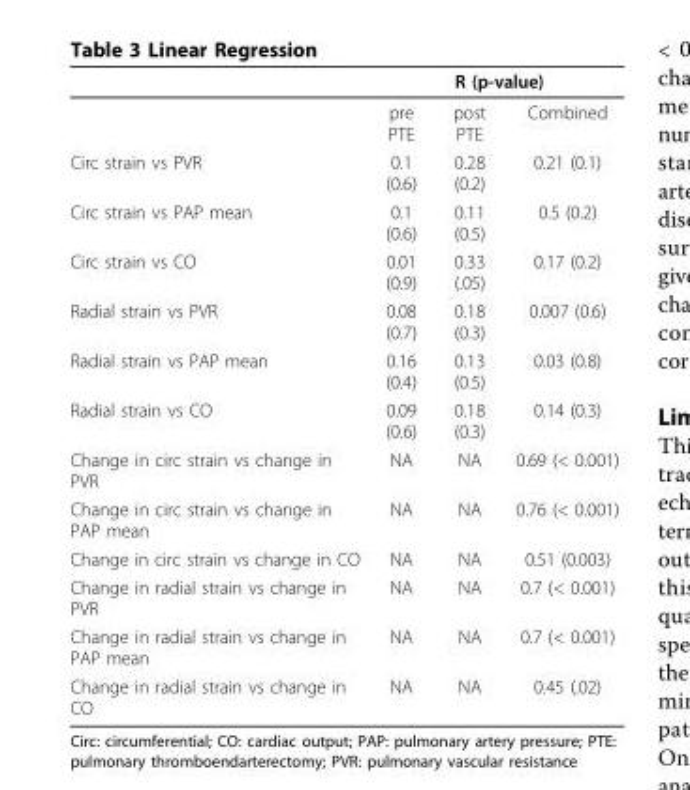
<table><thead><tr><td rowspan="2"></td><td colspan="3">R (p-value)</td></tr><tr><td>pre PTE</td><td>post PTE</td><td>Combined</td></tr></thead><tbody><tr><td>Circ strain vs PVR</td><td>0.1 (0.6)</td><td>0.28 (0.2)</td><td>0.21 (0.1)</td></tr><tr><td>Circ strain vs PAP mean</td><td>0.1 (0.6)</td><td>0.11 (0.5)</td><td>0.5 (0.2)</td></tr><tr><td>Circ strain vs CO</td><td>0.01 (0.9)</td><td>0.33 (.05)</td><td>0.17 (0.2)</td></tr><tr><td>Radial strain vs PVR</td><td>0.08 (0.7)</td><td>0.18 (0.3)</td><td>0.007 (0.6)</td></tr><tr><td>Radial strain vs PAP mean</td><td>0.16 (0.4)</td><td>0.13 (0.5)</td><td>0.03 (0.8)</td></tr><tr><td>Radial strain vs CO</td><td>0.09 (0.6)</td><td>0.18 (0.3)</td><td>0.14 (0.3)</td></tr><tr><td>Change in circ strain vs change in PVR</td><td>NA</td><td>NA</td><td>0.69 (&lt; 0.001)</td></tr><tr><td>Change in circ strain vs change in PAP mean</td><td>NA</td><td>NA</td><td>0.76 (&lt; 0.001)</td></tr><tr><td>Change in circ strain vs change in CO</td><td>NA</td><td>NA</td><td>0.51 (0.003)</td></tr><tr><td>Change in radial strain vs change in PVR</td><td>NA</td><td>NA</td><td>0.7 (&lt; 0.001)</td></tr><tr><td>Change in radial strain vs change in PAP mean</td><td>NA</td><td>NA</td><td>0.7 (&lt; 0.001)</td></tr><tr><td>Change in radial strain vs change in CO</td><td>NA</td><td>NA</td><td>0.45 (.02)</td></tr></tbody></table>